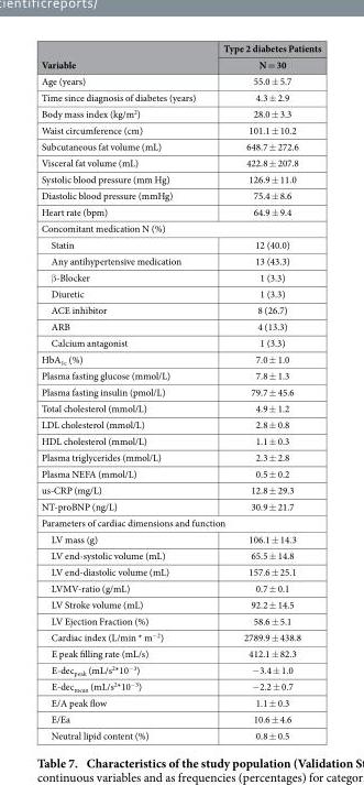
<table><thead><tr><td rowspan="2">Variable</td><td rowspan="2">Type 2 diabetes Patients N = 30</td></tr><tr></tr></thead><tbody><tr><td>Age (years)</td><td>55.0 ± 5.7</td></tr><tr><td>Time since diagnosis of diabetes (years)</td><td>4.3 ± 2.9</td></tr><tr><td>Body mass index (kg/m<sup>2</sup>)</td><td>28.0 ± 3.3</td></tr><tr><td>Waist circumference (cm)</td><td>101.1 ± 10.2</td></tr><tr><td>Subcutaneous fat volume (mL)</td><td>648.7 ± 272.6</td></tr><tr><td>Visceral fat volume (mL)</td><td>422.8 ± 207.8</td></tr><tr><td>Systolic blood pressure (mm Hg)</td><td>126.9 ± 11.0</td></tr><tr><td>Diastolic blood pressure (mmHg)</td><td>75.4 ± 8.6</td></tr><tr><td>Heart rate (bpm)</td><td>64.9 ± 9.4</td></tr><tr><td colspan="2">Concomitant medication N (%)</td></tr><tr><td>Statin</td><td>12 (40.0)</td></tr><tr><td>Any antihypertensive medication</td><td>13 (43.3)</td></tr><tr><td>β -Blocker</td><td>1 (3.3)</td></tr><tr><td>Diuretic</td><td>1 (3.3)</td></tr><tr><td>ACE inhibitor</td><td>8 (26.7)</td></tr><tr><td>ARB</td><td>4 (13.3)</td></tr><tr><td>Calcium antagonist</td><td>1 (3.3)</td></tr><tr><td>HbA<sub>1c</sub> (%)</td><td>7.0 ± 1.0</td></tr><tr><td>Plasma fasting glucose (mmol/L)</td><td>7.8 ± 1.3</td></tr><tr><td>Plasma fasting insulin (pmol/L)</td><td>79.7 ± 45.6</td></tr><tr><td>Total cholesterol (mmol/L)</td><td>4.9 ± 1.2</td></tr><tr><td>LDL cholesterol (mmol/L)</td><td>2.8 ± 0.8</td></tr><tr><td>HDL cholesterol (mmol/L)</td><td>1.1 ± 0.3</td></tr><tr><td>Plasma triglycerides (mmol/L)</td><td>2.3 ± 2.8</td></tr><tr><td>Plasma NEFA (mmol/L)</td><td>0.5 ± 0.2</td></tr><tr><td>us-CRP (mg/L)</td><td>12.8 ± 29.3</td></tr><tr><td>NT-proBNP (ng/L)</td><td>30.9 ± 21.7</td></tr><tr><td colspan="2">Parameters of cardiac dimensions and function</td></tr><tr><td>LV mass (g)</td><td>106.1 ± 14.3</td></tr><tr><td>LV end-systolic volume (mL)</td><td>65.5 ± 14.8</td></tr><tr><td>LV end-diastolic volume (mL)</td><td>157.6 ± 25.1</td></tr><tr><td>LVMV-ratio (g/mL)</td><td>0.7 ± 0.1</td></tr><tr><td>LV Stroke volume (mL)</td><td>92.2 ± 14.5</td></tr><tr><td>LV Ejection Fraction (%)</td><td>58.6 ± 5.1</td></tr><tr><td>Cardiac index (L/min * m<sup>−2</sup>)</td><td>2789.9 ± 438.8</td></tr><tr><td>E peak filling rate (mL/s)</td><td>412.1 ± 82.3</td></tr><tr><td>E-dec<sub>peak</sub> (mL/s<sup>2</sup>*10<sup>−3</sup>)</td><td>− 3.4 ± 1.0</td></tr><tr><td>E-dec<sub>mean</sub> (mL/s<sup>2</sup>*10<sup>−3</sup>)</td><td>− 2.2 ± 0.7</td></tr><tr><td>E/A peak flow</td><td>1.1 ± 0.3</td></tr><tr><td>E/Ea</td><td>10.6 ± 4.6</td></tr><tr><td>Neutral lipid content (%)</td><td>0.8 ± 0.5</td></tr></tbody></table>